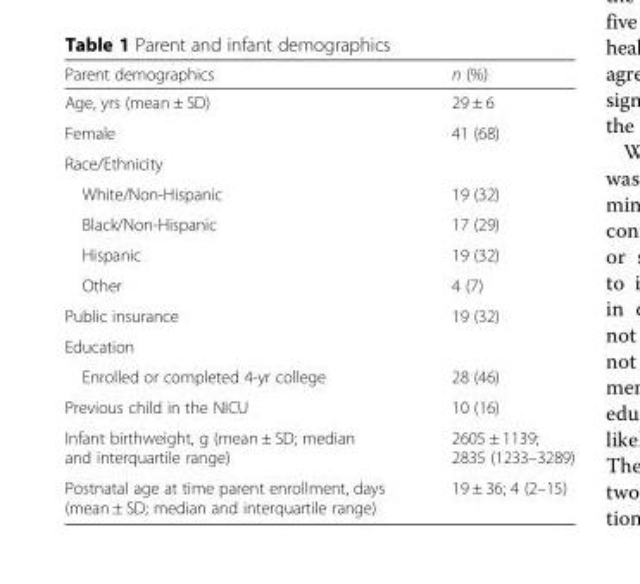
<table><thead><tr><td>Parent demographics</td><td>n (%)</td></tr></thead><tbody><tr><td>Age, yrs (mean ± SD)</td><td>29 ± 6</td></tr><tr><td>Female</td><td>41 (68)</td></tr><tr><td colspan="2">Race/Ethnicity</td></tr><tr><td>White/Non-Hispanic</td><td>19 (32)</td></tr><tr><td>Black/Non-Hispanic</td><td>17 (29)</td></tr><tr><td>Hispanic</td><td>19 (32)</td></tr><tr><td>Other</td><td>4 (7)</td></tr><tr><td>Public insurance</td><td>19 (32)</td></tr><tr><td colspan="2">Education</td></tr><tr><td>Enrolled or completed 4-yr college</td><td>28 (46)</td></tr><tr><td>Previous child in the NICU</td><td>10 (16)</td></tr><tr><td>Infant birthweight, g (mean ± SD; median and interquartile range)</td><td>2605 ± 1139; 2835 (1233–3289)</td></tr><tr><td>Postnatal age at time parent enrollment, days (mean ± SD; median and interquartile range)</td><td>19 ± 36; 4 (2–15)</td></tr></tbody></table>